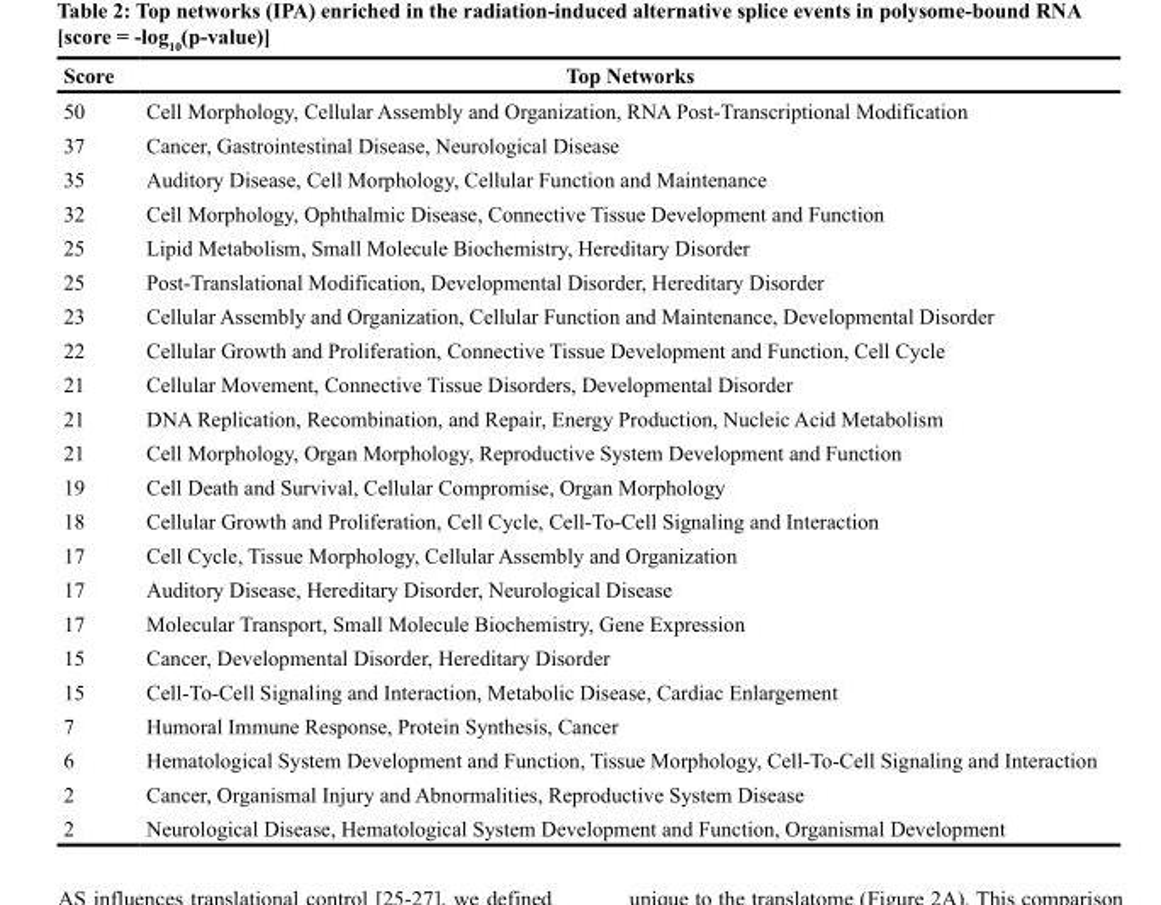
<table><thead><tr><td>Score</td><td>Top Networks</td></tr></thead><tbody><tr><td>50</td><td>Cell Morphology, Cellular Assembly and Organization, RNA Post-Transcriptional Modification</td></tr><tr><td>37</td><td>Cancer, Gastrointestinal Disease, Neurological Disease</td></tr><tr><td>35</td><td>Auditory Disease, Cell Morphology, Cellular Function and Maintenance</td></tr><tr><td>32</td><td>Cell Morphology, Ophthalmic Disease, Connective Tissue Development and Function</td></tr><tr><td>25</td><td>Lipid Metabolism, Small Molecule Biochemistry, Hereditary Disorder</td></tr><tr><td>25</td><td>Post-Translational Modification, Developmental Disorder, Hereditary Disorder</td></tr><tr><td>23</td><td>Cellular Assembly and Organization, Cellular Function and Maintenance, Developmental Disorder</td></tr><tr><td>22</td><td>Cellular Growth and Proliferation, Connective Tissue Development and Function, Cell Cycle</td></tr><tr><td>21</td><td>Cellular Movement, Connective Tissue Disorders, Developmental Disorder</td></tr><tr><td>21</td><td>DNA Replication, Recombination, and Repair, Energy Production, Nucleic Acid Metabolism</td></tr><tr><td>21</td><td>Cell Morphology, Organ Morphology, Reproductive System Development and Function</td></tr><tr><td>19</td><td>Cell Death and Survival, Cellular Compromise, Organ Morphology</td></tr><tr><td>18</td><td>Cellular Growth and Proliferation, Cell Cycle, Cell-To-Cell Signaling and Interaction</td></tr><tr><td>17</td><td>Cell Cycle, Tissue Morphology, Cellular Assembly and Organization</td></tr><tr><td>17</td><td>Auditory Disease, Hereditary Disorder, Neurological Disease</td></tr><tr><td>17</td><td>Molecular Transport, Small Molecule Biochemistry, Gene Expression</td></tr><tr><td>15</td><td>Cancer, Developmental Disorder, Hereditary Disorder</td></tr><tr><td>15</td><td>Cell-To-Cell Signaling and Interaction, Metabolic Disease, Cardiac Enlargement</td></tr><tr><td>7</td><td>Humoral Immune Response, Protein Synthesis, Cancer</td></tr><tr><td>6</td><td>Hematological System Development and Function, Tissue Morphology, Cell-To-Cell Signaling and Interaction</td></tr><tr><td>2</td><td>Cancer, Organismal Injury and Abnormalities, Reproductive System Disease</td></tr><tr><td>2</td><td>Neurological Disease, Hematological System Development and Function, Organismal Development</td></tr></tbody></table>